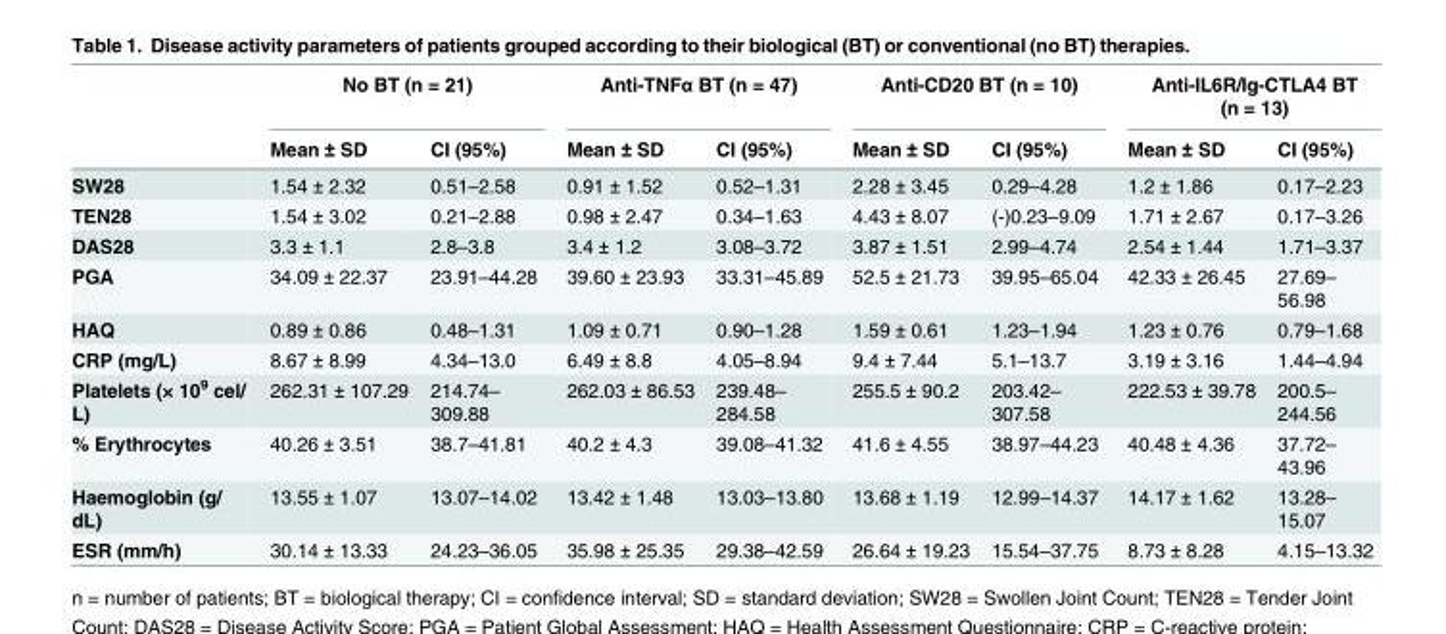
<table><thead><tr><td rowspan="2"></td><td colspan="2">No BT (n = 21)</td><td colspan="2">Anti-TNFα BT (n = 47)</td><td colspan="2">Anti-CD20 BT (n = 10)</td><td colspan="2">Anti-IL6R/Ig-CTLA4 BT (n = 13)</td></tr><tr><td>Mean ± SD</td><td>CI (95%)</td><td>Mean ± SD</td><td>CI (95%)</td><td>Mean ± SD</td><td>CI (95%)</td><td>Mean ± SD</td><td>CI (95%)</td></tr></thead><tbody><tr><td>SW28</td><td>1.54 ± 2.32</td><td>0.51–2.58</td><td>0.91 ± 1.52</td><td>0.52–1.31</td><td>2.28 ± 3.45</td><td>0.29–4.28</td><td>1.2 ± 1.86</td><td>0.17–2.23</td></tr><tr><td>TEN28</td><td>1.54 ± 3.02</td><td>0.21–2.88</td><td>0.98 ± 2.47</td><td>0.34–1.63</td><td>4.43 ± 8.07</td><td>(-)0.23–9.09</td><td>1.71 ± 2.67</td><td>0.17–3.26</td></tr><tr><td>DAS28</td><td>3.3 ± 1.1</td><td>2.8–3.8</td><td>3.4 ± 1.2</td><td>3.08–3.72</td><td>3.87 ± 1.51</td><td>2.99–4.74</td><td>2.54 ± 1.44</td><td>1.71–3.37</td></tr><tr><td>PGA</td><td>34.09 ± 22.37</td><td>23.91–44.28</td><td>39.60 ± 23.93</td><td>33.31–45.89</td><td>52.5 ± 21.73</td><td>39.95–65.04</td><td>42.33 ± 26.45</td><td>27.69– 56.98</td></tr><tr><td>HAQ</td><td>0.89 ± 0.86</td><td>0.48–1.31</td><td>1.09 ± 0.71</td><td>0.90–1.28</td><td>1.59 ± 0.61</td><td>1.23–1.94</td><td>1.23 ± 0.76</td><td>0.79–1.68</td></tr><tr><td>CRP (mg/L)</td><td>8.67 ± 8.99</td><td>4.34–13.0</td><td>6.49 ± 8.8</td><td>4.05–8.94</td><td>9.4 ± 7.44</td><td>5.1–13.7</td><td>3.19 ± 3.16</td><td>1.44–4.94</td></tr><tr><td>Platelets (× 10<sup>9</sup> cel/ L)</td><td>262.31 ± 107.29</td><td>214.74– 309.88</td><td>262.03 ± 86.53</td><td>239.48– 284.58</td><td>255.5 ± 90.2</td><td>203.42– 307.58</td><td>222.53 ± 39.78</td><td>200.5– 244.56</td></tr><tr><td>% Erythrocytes</td><td>40.26 ± 3.51</td><td>38.7–41.81</td><td>40.2 ± 4.3</td><td>39.08–41.32</td><td>41.6 ± 4.55</td><td>38.97–44.23</td><td>40.48 ± 4.36</td><td>37.72– 43.96</td></tr><tr><td>Haemoglobin (g/ dL)</td><td>13.55 ± 1.07</td><td>13.07–14.02</td><td>13.42 ± 1.48</td><td>13.03–13.80</td><td>13.68 ± 1.19</td><td>12.99–14.37</td><td>14.17 ± 1.62</td><td>13.28– 15.07</td></tr><tr><td>ESR (mm/h)</td><td>30.14 ± 13.33</td><td>24.23–36.05</td><td>35.98 ± 25.35</td><td>29.38–42.59</td><td>26.64 ± 19.23</td><td>15.54–37.75</td><td>8.73 ± 8.28</td><td>4.15–13.32</td></tr></tbody></table>